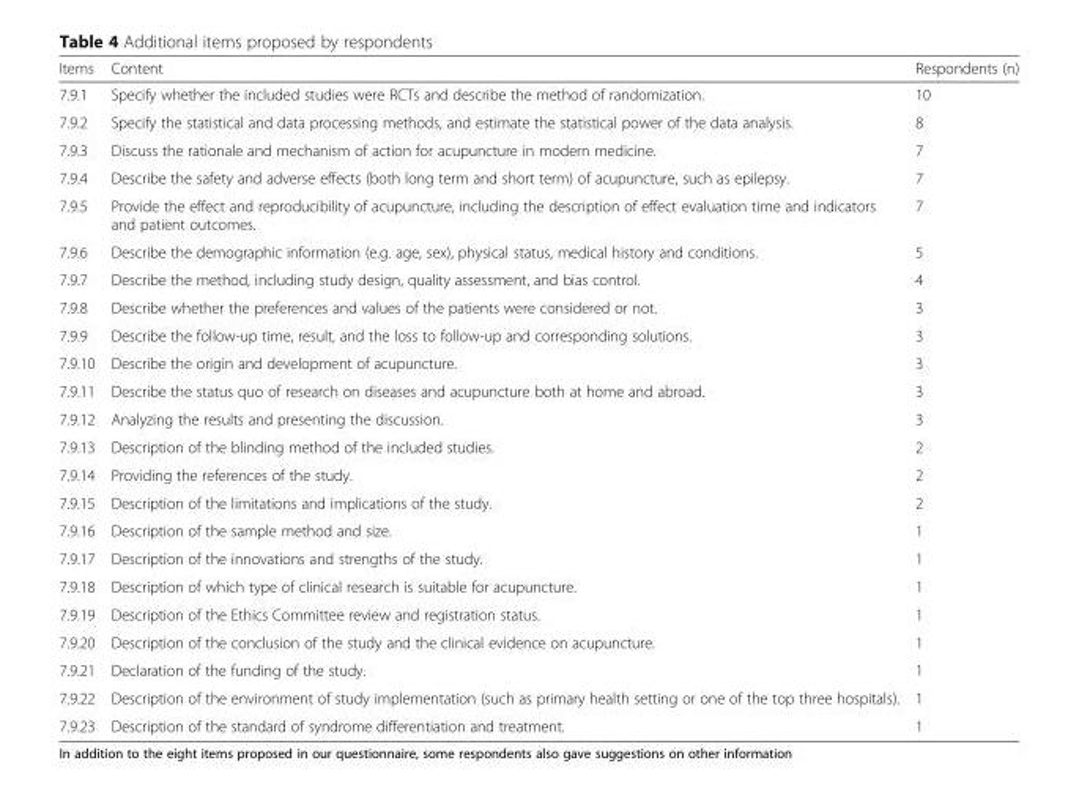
<table><thead><tr><td>Items</td><td>Content</td><td>Respondents (n)</td></tr></thead><tbody><tr><td>7.9.1</td><td>Specify whether the included studies were RCTs and describe the method of randomization.</td><td>10</td></tr><tr><td>7.9.2</td><td>Specify the statistical and data processing methods, and estimate the statistical power of the data analysis.</td><td>8</td></tr><tr><td>7.9.3</td><td>Discuss the rationale and mechanism of action for acupuncture in modern medicine.</td><td>7</td></tr><tr><td>7.9.4</td><td>Describe the safety and adverse effects (both long term and short term) of acupuncture, such as epilepsy.</td><td>7</td></tr><tr><td>7.9.5</td><td>Provide the effect and reproducibility of acupuncture, including the description of effect evaluation time and indicators and patient outcomes.</td><td>7</td></tr><tr><td>7.9.6</td><td>Describe the demographic information (e.g. age, sex), physical status, medical history and conditions.</td><td>5</td></tr><tr><td>7.9.7</td><td>Describe the method, including study design, quality assessment, and bias control.</td><td>4</td></tr><tr><td>7.9.8</td><td>Describe whether the preferences and values of the patients were considered or not.</td><td>3</td></tr><tr><td>7.9.9</td><td>Describe the follow-up time, result, and the loss to follow-up and corresponding solutions.</td><td>3</td></tr><tr><td>7.9.10</td><td>Describe the origin and development of acupuncture.</td><td>3</td></tr><tr><td>7.9.11</td><td>Describe the status quo of research on diseases and acupuncture both at home and abroad.</td><td>3</td></tr><tr><td>7.9.12</td><td>Analyzing the results and presenting the discussion.</td><td>3</td></tr><tr><td>7.9.13</td><td>Description of the blinding method of the included studies.</td><td>2</td></tr><tr><td>7.9.14</td><td>Providing the references of the study.</td><td>2</td></tr><tr><td>7.9.15</td><td>Description of the limitations and implications of the study.</td><td>2</td></tr><tr><td>7.9.16</td><td>Description of the sample method and size.</td><td>1</td></tr><tr><td>7.9.17</td><td>Description of the innovations and strengths of the study.</td><td>1</td></tr><tr><td>7.9.18</td><td>Description of which type of clinical research is suitable for acupuncture.</td><td>1</td></tr><tr><td>7.9.19</td><td>Description of the Ethics Committee review and registration status.</td><td>1</td></tr><tr><td>7.9.20</td><td>Description of the conclusion of the study and the clinical evidence on acupuncture.</td><td>1</td></tr><tr><td>7.9.21</td><td>Declaration of the funding of the study.</td><td>1</td></tr><tr><td>7.9.22</td><td>Description of the environment of study implementation (such as primary health setting or one of the top three hospitals).</td><td>1</td></tr><tr><td>7.9.23</td><td>Description of the standard of syndrome differentiation and treatment.</td><td>1</td></tr></tbody></table>